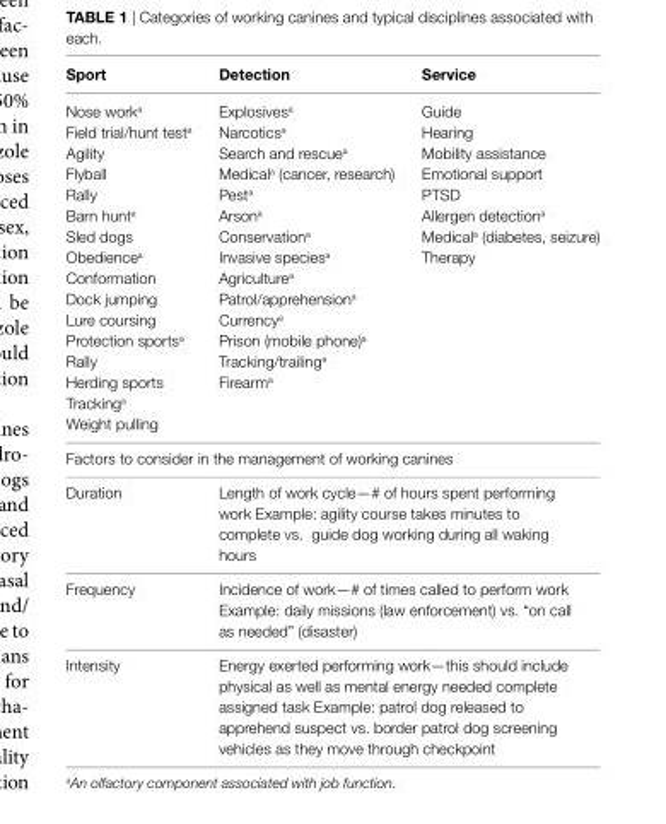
<table><thead><tr><td>Sport</td><td>Detection</td><td>Service</td></tr></thead><tbody><tr><td>Nose work<sup>a</sup></td><td>Explosives<sup>a</sup></td><td>Guide</td></tr><tr><td>Field trial/hunt test<sup>a</sup></td><td>Narcotics<sup>a</sup></td><td>Hearing</td></tr><tr><td>Agility</td><td>Search and rescue<sup>a</sup></td><td>Mobility assistance</td></tr><tr><td>Flyball</td><td>Medical<sup>a</sup> (cancer, research)</td><td>Emotional support</td></tr><tr><td>Rally</td><td>Pest<sup>a</sup></td><td>PTSD</td></tr><tr><td>Barn hunt<sup>a</sup></td><td>Arson<sup>a</sup></td><td>Allergen detection<sup>a</sup></td></tr><tr><td>Sled dogs</td><td>Conservation<sup>a</sup></td><td>Medical<sup>a</sup> (diabetes, seizure)</td></tr><tr><td>Obedience<sup>a</sup></td><td>Invasive species<sup>a</sup></td><td>Therapy</td></tr><tr><td>Conformation</td><td>Agriculture<sup>a</sup></td><td></td></tr><tr><td>Dock jumping</td><td>Patrol/apprehension<sup>a</sup></td><td></td></tr><tr><td>Lure coursing</td><td>Currency<sup>a</sup></td><td></td></tr><tr><td>Protection sports<sup>a</sup></td><td>Prison (mobile phone)<sup>a</sup></td><td></td></tr><tr><td>Rally</td><td>Tracking/trailing<sup>a</sup></td><td></td></tr><tr><td>Herding sports</td><td>Firearm<sup>a</sup></td><td></td></tr><tr><td colspan="3">Tracking<sup>a</sup></td></tr><tr><td colspan="3">Weight pulling</td></tr><tr><td colspan="3">Factors to consider in the management of working canines</td></tr><tr><td>Duration</td><td colspan="2">Length of work cycle—# of hours spent performing work Example: agility course takes minutes to complete vs. guide dog working during all waking hours</td></tr><tr><td>Frequency</td><td colspan="2">Incidence of work—# of times called to perform work Example: daily missions (law enforcement) vs. “on call as needed” (disaster)</td></tr><tr><td>Intensity</td><td colspan="2">Energy exerted performing work—this should include physical as well as mental energy needed complete assigned task Example: patrol dog released to apprehend suspect vs. border patrol dog screening vehicles as they move through checkpoint</td></tr></tbody></table>